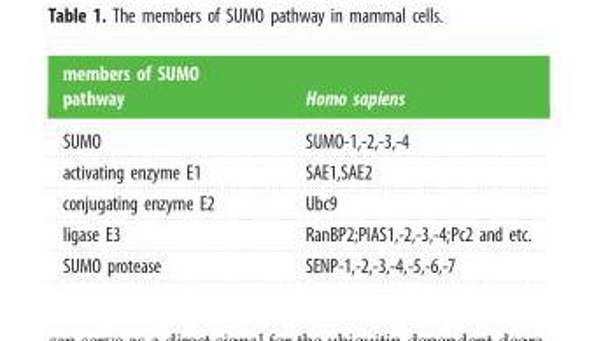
<table><thead><tr><td>members of SUMO pathway</td><td>Homo sapiens</td></tr></thead><tbody><tr><td>SUMO</td><td>SUMO-1,-2,-3,-4</td></tr><tr><td>activating enzyme E1</td><td>SAE1,SAE2</td></tr><tr><td>conjugating enzyme E2</td><td>Ubc9</td></tr><tr><td>ligase E3</td><td>RanBP2;PIAS1,-2,-3,-4;Pc2 and etc.</td></tr><tr><td>SUMO protease</td><td>SENP-1,-2,-3,-4,-5,-6,-7</td></tr></tbody></table>